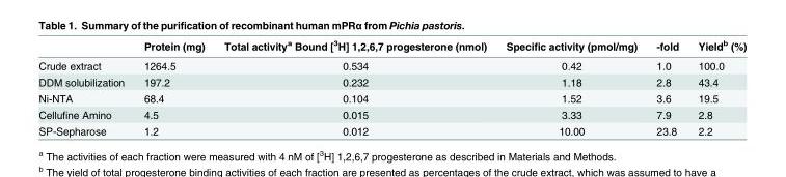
<table><thead><tr><td></td><td>Protein (mg)</td><td>Total activity<sup>a</sup> Bound [<sup>3</sup>H] 1,2,6,7 progesterone (nmol)</td><td>Specific activity (pmol/mg)</td><td>-fold</td><td>Yield<sup>b</sup> (%)</td></tr></thead><tbody><tr><td>Crude extract</td><td>1264.5</td><td>0.534</td><td>0.42</td><td>1.0</td><td>100.0</td></tr><tr><td>DDM solubilization</td><td>197.2</td><td>0.232</td><td>1.18</td><td>2.8</td><td>43.4</td></tr><tr><td>Ni-NTA</td><td>68.4</td><td>0.104</td><td>1.52</td><td>3.6</td><td>19.5</td></tr><tr><td>Cellufine Amino</td><td>4.5</td><td>0.015</td><td>3.33</td><td>7.9</td><td>2.8</td></tr><tr><td>SP-Sepharose</td><td>1.2</td><td>0.012</td><td>10.00</td><td>23.8</td><td>2.2</td></tr></tbody></table>